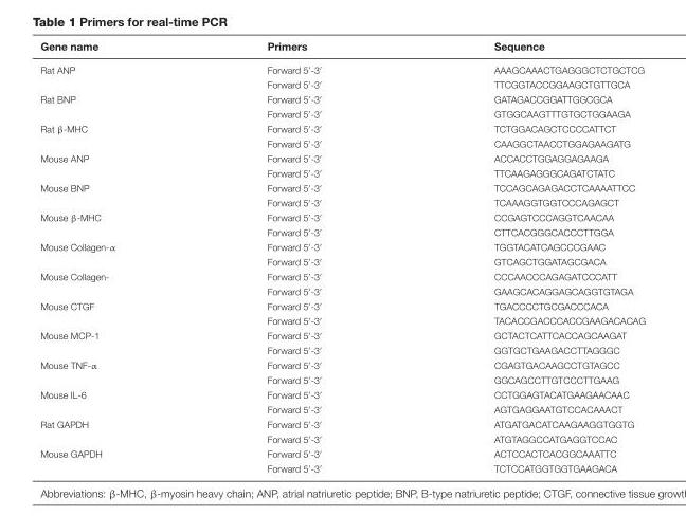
<table><thead><tr><td>Gene name</td><td>Primers</td><td>Sequence</td></tr></thead><tbody><tr><td rowspan="2">Rat ANP</td><td>Forward 5′-3′</td><td>AAAGCAAACTGAGGGCTCTGCTCG</td></tr><tr><td>Forward 5′-3′</td><td>TTCGGTACCGGAAGCTGTTGCA</td></tr><tr><td rowspan="2">Rat BNP</td><td>Forward 5′-3′</td><td>GATAGACCGGATTGGCGCA</td></tr><tr><td>Forward 5′-3′</td><td>GTGGCAAGTTTGTGCTGGAAGA</td></tr><tr><td rowspan="2">Rat β-MHC</td><td>Forward 5′-3′</td><td>TCTGGACAGCTCCCCATTCT</td></tr><tr><td>Forward 5′-3′</td><td>CAAGGCTAACCTGGAGAAGATG</td></tr><tr><td rowspan="2">Mouse ANP</td><td>Forward 5′-3′</td><td>ACCACCTGGAGGAGAAGA</td></tr><tr><td>Forward 5′-3′</td><td>TTCAAGAGGGCAGATCTATC</td></tr><tr><td rowspan="2">Mouse BNP</td><td>Forward 5′-3′</td><td>TCCAGCAGAGACCTCAAAATTCC</td></tr><tr><td>Forward 5′-3′</td><td>TCAAAGGTGGTCCCAGAGCT</td></tr><tr><td rowspan="2">Mouse β-MHC</td><td>Forward 5′-3′</td><td>CCGAGTCCCAGGTCAACAA</td></tr><tr><td>Forward 5′-3′</td><td>CTTCACGGGCACCCTTGGA</td></tr><tr><td rowspan="2">Mouse Collagen-α</td><td>Forward 5′-3′</td><td>TGGTACATCAGCCCGAAC</td></tr><tr><td>Forward 5′-3′</td><td>GTCAGCTGGATAGCGACA</td></tr><tr><td rowspan="2">Mouse Collagen-</td><td>Forward 5′-3′</td><td>CCCAACCCAGAGATCCCATT</td></tr><tr><td>Forward 5′-3′</td><td>GAAGCACAGGAGCAGGTGTAGA</td></tr><tr><td rowspan="2">Mouse CTGF</td><td>Forward 5′-3′</td><td>TGACCCCTGCGACCCACA</td></tr><tr><td>Forward 5′-3′</td><td>TACACCGACCCACCGAAGACACAG</td></tr><tr><td rowspan="2">Mouse MCP-1</td><td>Forward 5′-3′</td><td>GCTACTCATTCACCAGCAAGAT</td></tr><tr><td>Forward 5′-3′</td><td>GGTGCTGAAGACCTTAGGGC</td></tr><tr><td rowspan="2">Mouse TNF-α</td><td>Forward 5′-3′</td><td>CGAGTGACAAGCCTGTAGCC</td></tr><tr><td>Forward 5′-3′</td><td>GGCAGCCTTGTCCCTTGAAG</td></tr><tr><td rowspan="2">Mouse IL-6</td><td>Forward 5′-3′</td><td>CCTGGAGTACATGAAGAACAAC</td></tr><tr><td>Forward 5′-3′</td><td>AGTGAGGAATGTCCACAAACT</td></tr><tr><td rowspan="2">Rat GAPDH</td><td>Forward 5′-3′</td><td>ATGATGACATCAAGAAGGTGGTG</td></tr><tr><td>Forward 5′-3′</td><td>ATGTAGGCCATGAGGTCCAC</td></tr><tr><td rowspan="2">Mouse GAPDH</td><td>Forward 5′-3′</td><td>ACTCCACTCACGGCAAATTC</td></tr><tr><td>Forward 5′-3′</td><td>TCTCCATGGTGGTGAAGACA</td></tr></tbody></table>